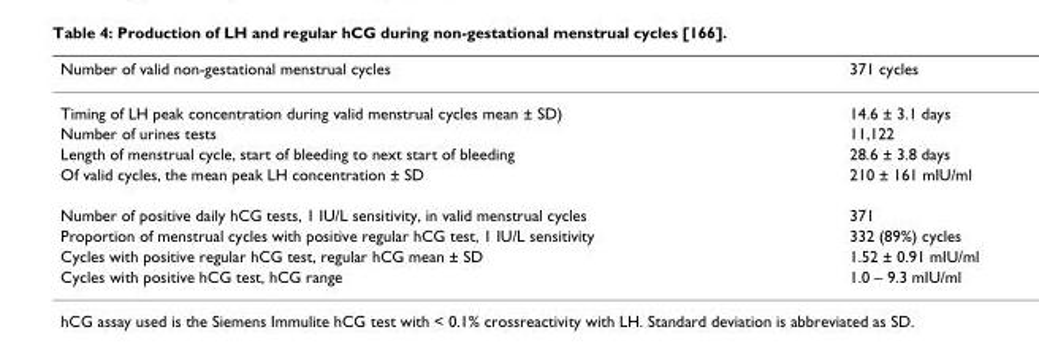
<table><thead><tr><td>Number of valid non-gestational menstrual cycles</td><td>371 cycles</td></tr></thead><tbody><tr><td>Timing of LH peak concentration during valid menstrual cycles mean ± SD)</td><td>14.6 ± 3.1 days</td></tr><tr><td>Number of urines tests</td><td>11,122</td></tr><tr><td>Length of menstrual cycle, start of bleeding to next start of bleeding</td><td>28.6 ± 3.8 days</td></tr><tr><td>Of valid cycles, the mean peak LH concentration ± SD</td><td>210 ± 161 mIU/ml</td></tr><tr><td>Number of positive daily hCG tests, 1 IU/L sensitivity, in valid menstrual cycles</td><td>371</td></tr><tr><td>Proportion of menstrual cycles with positive regular hCG test, 1 IU/L sensitivity</td><td>332 (89%) cycles</td></tr><tr><td>Cycles with positive regular hCG test, regular hCG mean ± SD</td><td>1.52 ± 0.91 mIU/ml</td></tr><tr><td>Cycles with positive hCG test, hCG range</td><td>1.0 – 9.3 mIU/ml</td></tr></tbody></table>